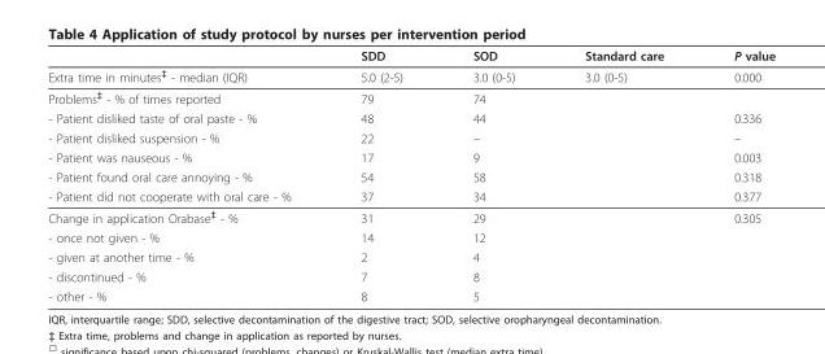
<table><thead><tr><td></td><td>SDD</td><td>SOD</td><td>Standard care</td><td>P value</td></tr></thead><tbody><tr><td>Extra time in minutes<sup>‡</sup> - median (IQR)</td><td>5.0 (2-5)</td><td>3.0 (0-5)</td><td>3.0 (0-5)</td><td>0.000</td></tr><tr><td>Problems<sup>‡</sup> - % of times reported</td><td>79</td><td>74</td><td></td><td></td></tr><tr><td>- Patient disliked taste of oral paste - %</td><td>48</td><td>44</td><td></td><td>0.336</td></tr><tr><td>- Patient disliked suspension - %</td><td>22</td><td>–</td><td></td><td>–</td></tr><tr><td>- Patient was nauseous - %</td><td>17</td><td>9</td><td></td><td>0.003</td></tr><tr><td>- Patient found oral care annoying - %</td><td>54</td><td>58</td><td></td><td>0.318</td></tr><tr><td>- Patient did not cooperate with oral care - %</td><td>37</td><td>34</td><td></td><td>0.377</td></tr><tr><td>Change in application Orabase<sup>‡</sup> - %</td><td>31</td><td>29</td><td></td><td>0.305</td></tr><tr><td>- once not given - %</td><td>14</td><td>12</td><td></td><td></td></tr><tr><td>- given at another time - %</td><td>2</td><td>4</td><td></td><td></td></tr><tr><td>- discontinued - %</td><td>7</td><td>8</td><td></td><td></td></tr><tr><td>- other - %</td><td>8</td><td>5</td><td></td><td></td></tr></tbody></table>